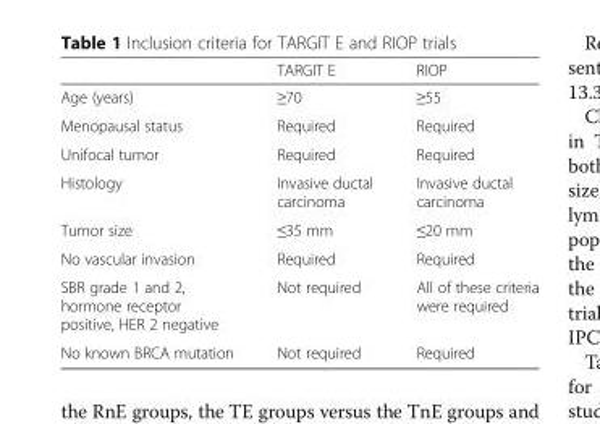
<table><thead><tr><td></td><td>TARGIT E</td><td>RIOP</td></tr></thead><tbody><tr><td>Age (years)</td><td>≥70</td><td>≥55</td></tr><tr><td>Menopausal status</td><td>Required</td><td>Required</td></tr><tr><td>Unifocal tumor</td><td>Required</td><td>Required</td></tr><tr><td>Histology</td><td>Invasive ductal carcinoma</td><td>Invasive ductal carcinoma</td></tr><tr><td>Tumor size</td><td>≤35 mm</td><td>≤20 mm</td></tr><tr><td>No vascular invasion</td><td>Required</td><td>Required</td></tr><tr><td>SBR grade 1 and 2, hormone receptor positive, HER 2 negative</td><td>Not required</td><td>All of these criteria were required</td></tr><tr><td>No known BRCA mutation</td><td>Not required</td><td>Required</td></tr></tbody></table>